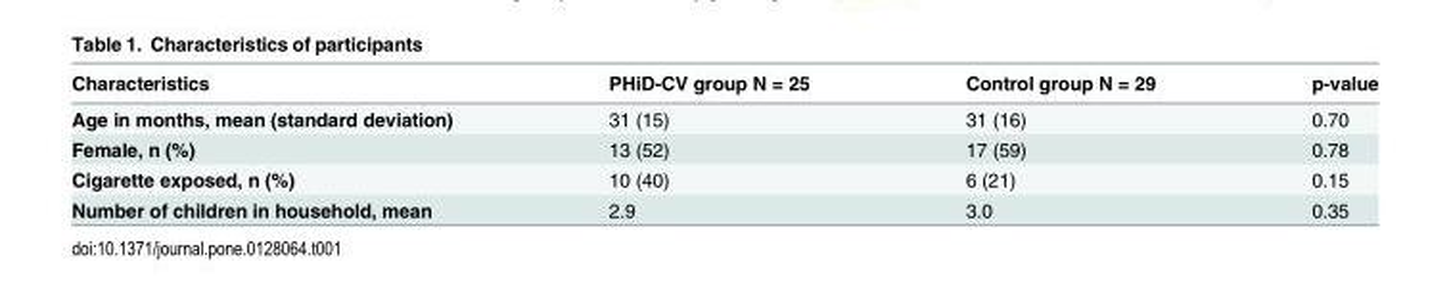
<table><thead><tr><td>Characteristics</td><td>PHiD-CV group N = 25</td><td>Control group N = 29</td><td>p-value</td></tr></thead><tbody><tr><td>Age in months, mean (standard deviation)</td><td>31 (15)</td><td>31 (16)</td><td>0.70</td></tr><tr><td>Female, n (%)</td><td>13 (52)</td><td>17 (59)</td><td>0.78</td></tr><tr><td>Cigarette exposed, n (%)</td><td>10 (40)</td><td>6 (21)</td><td>0.15</td></tr><tr><td>Number of children in household, mean</td><td>2.9</td><td>3.0</td><td>0.35</td></tr></tbody></table>